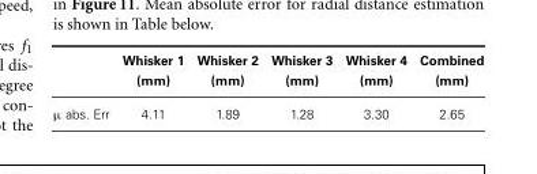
<table><thead><tr><td></td><td>Whisker 1 (mm)</td><td>Whisker 2 (mm)</td><td>Whisker 3 (mm)</td><td>Whisker 4 (mm)</td><td>Combined (mm)</td></tr></thead><tbody><tr><td>μ abs. Err</td><td>4.11</td><td>1.89</td><td>1.28</td><td>3.30</td><td>2.65</td></tr></tbody></table>